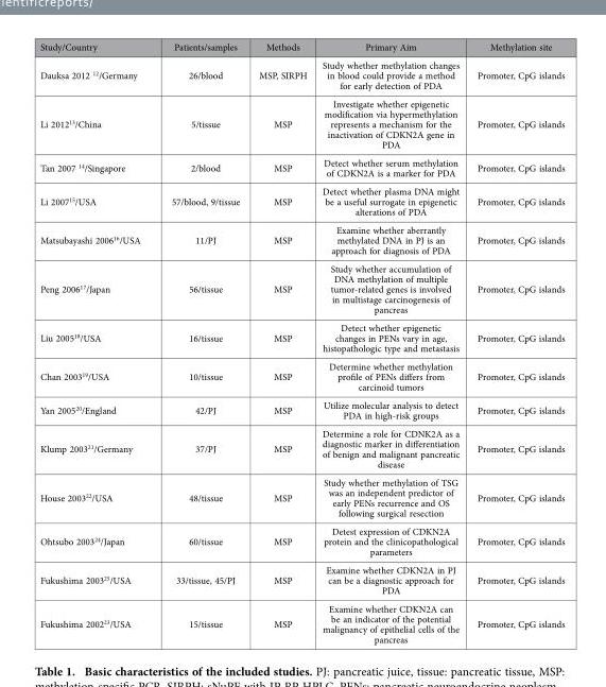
<table><thead><tr><td>Study/Country</td><td>Patients/samples</td><td>Methods</td><td>Primary Aim</td><td>Methylation site</td></tr></thead><tbody><tr><td>Dauksa 2012 12/Germany</td><td>26/blood</td><td>MSP, SIRPH</td><td>Study whether methylation changes in blood could provide a method for early detection of PDA</td><td>Promoter, CpG islands</td></tr><tr><td>Li 2012<sup>13</sup>/China</td><td>5/tissue</td><td>MSP</td><td>Investigate whether epigenetic modification via hypermethylation represents a mechanism for the inactivation of CDKN2A gene in PDA</td><td>Promoter, CpG islands</td></tr><tr><td>Tan 2007 14/Singapore</td><td>2/blood</td><td>MSP</td><td>Detect whether serum methylation of CDKN2A is a marker for PDA</td><td>Promoter, CpG islands</td></tr><tr><td>Li 2007<sup>15</sup>/USA</td><td>57/blood, 9/tissue</td><td>MSP</td><td>Detect whether plasma DNA might be a useful surrogate in epigenetic alterations of PDA</td><td>Promoter, CpG islands</td></tr><tr><td>Matsubayashi 2006<sup>16</sup>/USA</td><td>11/PJ</td><td>MSP</td><td>Examine whether aberrantly methylated DNA in PJ is an approach for diagnosis of PDA</td><td>Promoter, CpG islands</td></tr><tr><td>Peng 2006<sup>17</sup>/Japan</td><td>56/tissue</td><td>MSP</td><td>Study whether accumulation of DNA methylation of multiple tumor-related genes is involved in multistage carcinogenesis of pancreas</td><td>Promoter, CpG islands</td></tr><tr><td>Liu 2005<sup>18</sup>/USA</td><td>16/tissue</td><td>MSP</td><td>Detect whether epigenetic changes in PENs vary in age, histopathologic type and metastasis</td><td>Promoter, CpG islands</td></tr><tr><td>Chan 2003<sup>19</sup>/USA</td><td>10/tissue</td><td>MSP</td><td>Determine whether methylation profile of PENs differs from carcinoid tumors</td><td>Promoter, CpG islands</td></tr><tr><td>Yan 2005<sup>20</sup>/England</td><td>42/PJ</td><td>MSP</td><td>Utilize molecular analysis to detect PDA in high-risk groups</td><td>Promoter, CpG islands</td></tr><tr><td>Klump 2003<sup>21</sup>/Germany</td><td>37/PJ</td><td>MSP</td><td>Determine a role for CDNK2A as a diagnostic marker in differentiation of benign and malignant pancreatic disease</td><td>Promoter, CpG islands</td></tr><tr><td>House 2003<sup>22</sup>/USA</td><td>48/tissue</td><td>MSP</td><td>Study whether methylation of TSG was an independent predictor of early PENs recurrence and OS following surgical resection</td><td>Promoter, CpG islands</td></tr><tr><td>Ohtsubo 2003<sup>24</sup>/Japan</td><td>60/tissue</td><td>MSP</td><td>Detest expression of CDKN2A protein and the clinicopathological parameters</td><td>Promoter, CpG islands</td></tr><tr><td>Fukushima 2003<sup>25</sup>/USA</td><td>33/tissue, 45/PJ</td><td>MSP</td><td>Examine whether CDKN2A in PJ can be a diagnostic approach for PDA</td><td>Promoter, CpG islands</td></tr><tr><td>Fukushima 2002<sup>23</sup>/USA</td><td>15/tissue</td><td>MSP</td><td>Examine whether CDKN2A can be an indicator of the potential malignancy of epithelial cells of the pancreas</td><td>Promoter, CpG islands</td></tr></tbody></table>